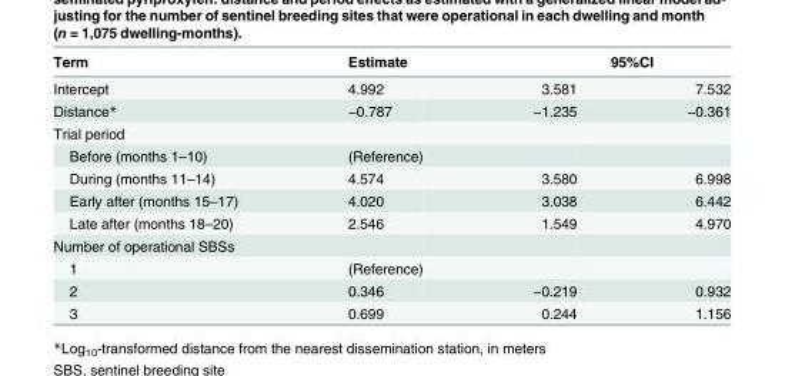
<table><thead><tr><td rowspan="2">Term Intercept</td><td rowspan="2">Estimate 4.992</td><td colspan="2">95%CI</td></tr><tr><td>3.581</td><td>7.532</td></tr></thead><tbody><tr><td>Distance*</td><td>−0.787</td><td>−1.235</td><td>−0.361</td></tr><tr><td colspan="4">Trial period</td></tr><tr><td>Before (months 1–10)</td><td>(Reference)</td><td></td><td></td></tr><tr><td>During (months 11–14)</td><td>4.574</td><td>3.580</td><td>6.998</td></tr><tr><td>Early after (months 15–17)</td><td>4.020</td><td>3.038</td><td>6.442</td></tr><tr><td>Late after (months 18–20)</td><td>2.546</td><td>1.549</td><td>4.970</td></tr><tr><td colspan="4">Number of operational SBSs</td></tr><tr><td>1</td><td>(Reference)</td><td></td><td></td></tr><tr><td>2</td><td>0.346</td><td>−0.219</td><td>0.932</td></tr><tr><td>3</td><td>0.699</td><td>0.244</td><td>1.156</td></tr></tbody></table>